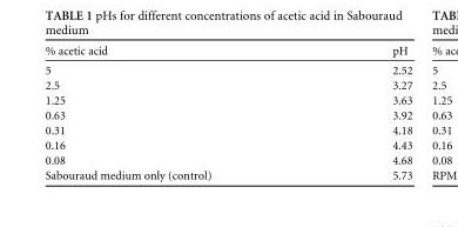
<table><thead><tr><td>% acetic acid</td><td>pH</td></tr></thead><tbody><tr><td>5</td><td>2.52</td></tr><tr><td>2.5</td><td>3.27</td></tr><tr><td>1.25</td><td>3.63</td></tr><tr><td>0.63</td><td>3.92</td></tr><tr><td>0.31</td><td>4.18</td></tr><tr><td>0.16</td><td>4.43</td></tr><tr><td>0.08</td><td>4.68</td></tr><tr><td>Sabouraud medium only (control)</td><td>5.73</td></tr></tbody></table>